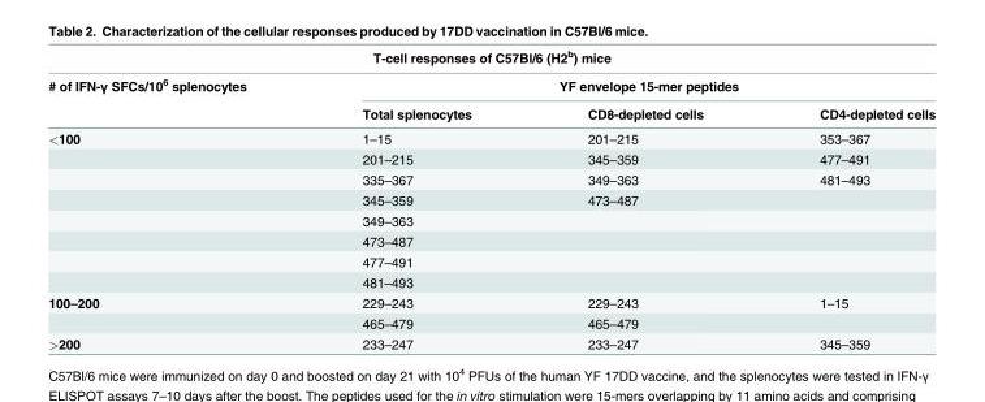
<table><thead><tr><td colspan="4">T-cell responses of C57Bl/6 (H2<sup>b</sup>) mice</td></tr><tr><td rowspan="2"># of IFN-γ SFCs/10<sup>6</sup> splenocytes</td><td colspan="3">YF envelope 15-mer peptides</td></tr><tr><td>Total splenocytes</td><td>CD8-depleted cells</td><td>CD4-depleted cells</td></tr></thead><tbody><tr><td rowspan="8">&lt;100</td><td>1–15</td><td>201–215</td><td>353–367</td></tr><tr><td>201–215</td><td>345–359</td><td>477–491</td></tr><tr><td>335–367</td><td>349–363</td><td>481–493</td></tr><tr><td>345–359</td><td>473–487</td><td></td></tr><tr><td>349–363</td><td></td><td></td></tr><tr><td>473–487</td><td></td><td></td></tr><tr><td>477–491</td><td></td><td></td></tr><tr><td>481–493</td><td></td><td></td></tr><tr><td rowspan="2">100–200</td><td>229–243</td><td>229–243</td><td>1–15</td></tr><tr><td>465–479</td><td>465–479</td><td></td></tr><tr><td>&gt;200</td><td>233–247</td><td>233–247</td><td>345–359</td></tr></tbody></table>